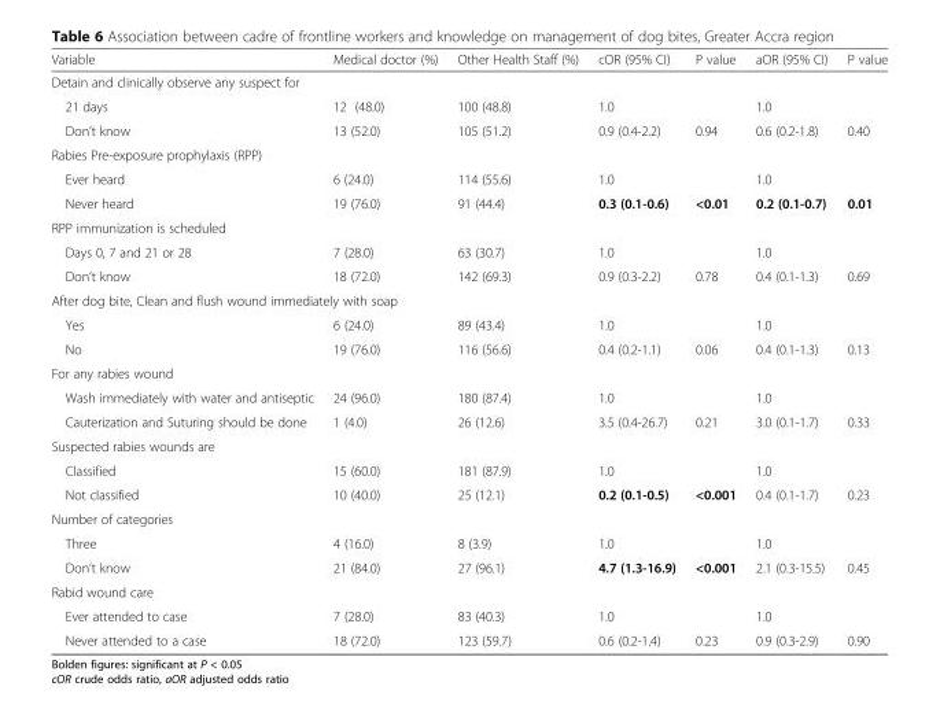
<table><thead><tr><td>Variable</td><td>Medical doctor (%)</td><td>Other Health Staff (%)</td><td>cOR (95% CI)</td><td>P value</td><td>aOR (95% CI)</td><td>P value</td></tr></thead><tbody><tr><td colspan="7">Detain and clinically observe any suspect for</td></tr><tr><td>21 days</td><td>12 (48.0)</td><td>100 (48.8)</td><td>1.0</td><td></td><td>1.0</td><td></td></tr><tr><td>Don’t know</td><td>13 (52.0)</td><td>105 (51.2)</td><td>0.9 (0.4-2.2)</td><td>0.94</td><td>0.6 (0.2-1.8)</td><td>0.40</td></tr><tr><td colspan="7">Rabies Pre-exposure prophylaxis (RPP)</td></tr><tr><td>Ever heard</td><td>6 (24.0)</td><td>114 (55.6)</td><td>1.0</td><td></td><td>1.0</td><td></td></tr><tr><td>Never heard</td><td>19 (76.0)</td><td>91 (44.4)</td><td>0.3 (0.1-0.6)</td><td>&lt;0.01</td><td>0.2 (0.1-0.7)</td><td>0.01</td></tr><tr><td colspan="7">RPP immunization is scheduled</td></tr><tr><td>Days 0, 7 and 21 or 28</td><td>7 (28.0)</td><td>63 (30.7)</td><td>1.0</td><td></td><td>1.0</td><td></td></tr><tr><td>Don’t know</td><td>18 (72.0)</td><td>142 (69.3)</td><td>0.9 (0.3-2.2)</td><td>0.78</td><td>0.4 (0.1-1.3)</td><td>0.69</td></tr><tr><td colspan="7">After dog bite, Clean and flush wound immediately with soap</td></tr><tr><td>Yes</td><td>6 (24.0)</td><td>89 (43.4)</td><td>1.0</td><td></td><td>1.0</td><td></td></tr><tr><td>No</td><td>19 (76.0)</td><td>116 (56.6)</td><td>0.4 (0.2-1.1)</td><td>0.06</td><td>0.4 (0.1-1.3)</td><td>0.13</td></tr><tr><td colspan="7">For any rabies wound</td></tr><tr><td>Wash immediately with water and antiseptic</td><td>24 (96.0)</td><td>180 (87.4)</td><td>1.0</td><td></td><td>1.0</td><td></td></tr><tr><td>Cauterization and Suturing should be done</td><td>1 (4.0)</td><td>26 (12.6)</td><td>3.5 (0.4-26.7)</td><td>0.21</td><td>3.0 (0.1-1.7)</td><td>0.33</td></tr><tr><td colspan="7">Suspected rabies wounds are</td></tr><tr><td>Classified</td><td>15 (60.0)</td><td>181 (87.9)</td><td>1.0</td><td></td><td>1.0</td><td></td></tr><tr><td>Not classified</td><td>10 (40.0)</td><td>25 (12.1)</td><td>0.2 (0.1-0.5)</td><td>&lt;0.001</td><td>0.4 (0.1-1.7)</td><td>0.23</td></tr><tr><td colspan="7">Number of categories</td></tr><tr><td>Three</td><td>4 (16.0)</td><td>8 (3.9)</td><td>1.0</td><td></td><td>1.0</td><td></td></tr><tr><td>Don’t know</td><td>21 (84.0)</td><td>27 (96.1)</td><td>4.7 (1.3-16.9)</td><td>&lt;0.001</td><td>2.1 (0.3-15.5)</td><td>0.45</td></tr><tr><td colspan="7">Rabid wound care</td></tr><tr><td>Ever attended to case</td><td>7 (28.0)</td><td>83 (40.3)</td><td>1.0</td><td></td><td>1.0</td><td></td></tr><tr><td>Never attended to a case</td><td>18 (72.0)</td><td>123 (59.7)</td><td>0.6 (0.2-1.4)</td><td>0.23</td><td>0.9 (0.3-2.9)</td><td>0.90</td></tr></tbody></table>